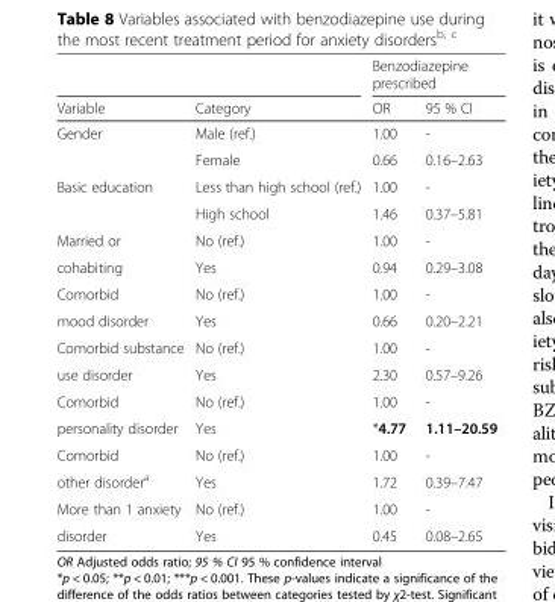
<table><thead><tr><td rowspan="2">Variable</td><td rowspan="2">Category</td><td colspan="2">Benzodiazepine prescribed</td></tr><tr><td>OR</td><td>95 % CI</td></tr></thead><tbody><tr><td rowspan="2">Gender</td><td>Male (ref.)</td><td>1.00</td><td>-</td></tr><tr><td>Female</td><td>0.66</td><td>0.16–2.63</td></tr><tr><td rowspan="2">Basic education</td><td>Less than high school (ref.)</td><td>1.00</td><td>-</td></tr><tr><td>High school</td><td>1.46</td><td>0.37–5.81</td></tr><tr><td>Married or</td><td>No (ref.)</td><td>1.00</td><td>-</td></tr><tr><td>cohabiting</td><td>Yes</td><td>0.94</td><td>0.29–3.08</td></tr><tr><td>Comorbid</td><td>No (ref.)</td><td>1.00</td><td>-</td></tr><tr><td>mood disorder</td><td>Yes</td><td>0.66</td><td>0.20–2.21</td></tr><tr><td>Comorbid substance</td><td>No (ref.)</td><td>1.00</td><td>-</td></tr><tr><td>use disorder</td><td>Yes</td><td>2.30</td><td>0.57–9.26</td></tr><tr><td>Comorbid</td><td>No (ref.)</td><td>1.00</td><td>-</td></tr><tr><td>personality disorder</td><td>Yes</td><td>*4.77</td><td>1.11–20.59</td></tr><tr><td>Comorbid</td><td>No (ref.)</td><td>1.00</td><td>-</td></tr><tr><td>other disorder<sup>a</sup></td><td>Yes</td><td>1.72</td><td>0.39–7.47</td></tr><tr><td>More than 1 anxiety</td><td>No (ref.)</td><td>1.00</td><td>-</td></tr><tr><td>disorder</td><td>Yes</td><td>0.45</td><td>0.08–2.65</td></tr></tbody></table>